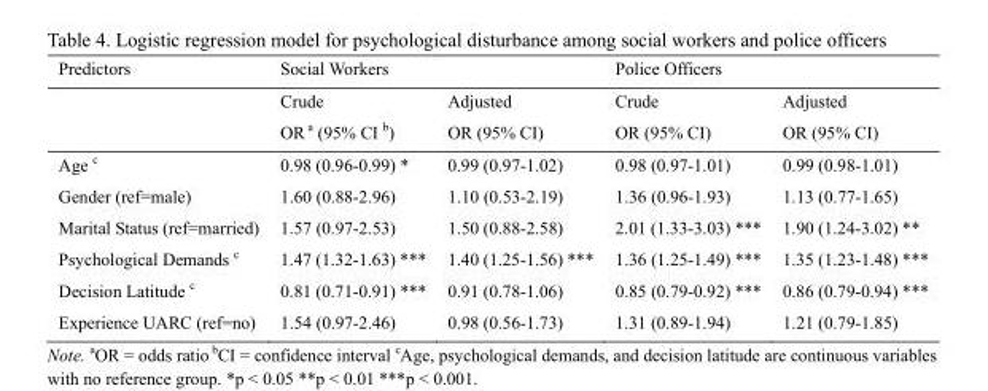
<table><thead><tr><td rowspan="2">Predictors</td><td colspan="2">Social Workers</td><td colspan="2">Police Officers</td></tr><tr><td>Crude OR <sup>a</sup> (95% CI <sup>b</sup>)</td><td>Adjusted OR (95% CI)</td><td>Crude OR (95% CI)</td><td>Adjusted OR (95% CI)</td></tr></thead><tbody><tr><td>Age <sup>c</sup></td><td>0.98 (0.96-0.99) *</td><td>0.99 (0.97-1.02)</td><td>0.98 (0.97-1.01)</td><td>0.99 (0.98-1.01)</td></tr><tr><td>Gender (ref=male)</td><td>1.60 (0.88-2.96)</td><td>1.10 (0.53-2.19)</td><td>1.36 (0.96-1.93)</td><td>1.13 (0.77-1.65)</td></tr><tr><td>Marital Status (ref=married)</td><td>1.57 (0.97-2.53)</td><td>1.50 (0.88-2.58)</td><td>2.01 (1.33-3.03) ***</td><td>1.90 (1.24-3.02) **</td></tr><tr><td>Psychological Demands <sup>c</sup></td><td>1.47 (1.32-1.63) ***</td><td>1.40 (1.25-1.56) ***</td><td>1.36 (1.25-1.49) ***</td><td>1.35 (1.23-1.48) ***</td></tr><tr><td>Decision Latitude <sup>c</sup></td><td>0.81 (0.71-0.91) ***</td><td>0.91 (0.78-1.06)</td><td>0.85 (0.79-0.92) ***</td><td>0.86 (0.79-0.94) ***</td></tr><tr><td>Experience UARC (ref=no)</td><td>1.54 (0.97-2.46)</td><td>0.98 (0.56-1.73)</td><td>1.31 (0.89-1.94)</td><td>1.21 (0.79-1.85)</td></tr></tbody></table>